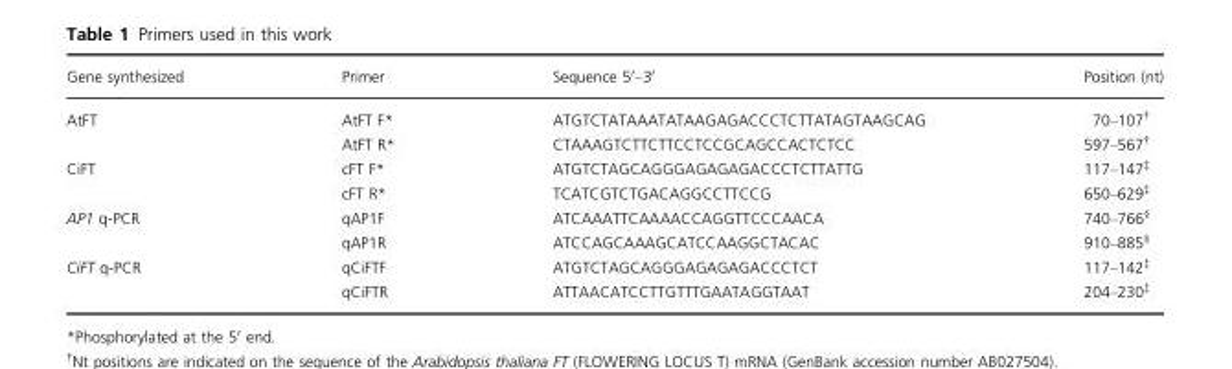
<table><thead><tr><td>Gene synthesized</td><td>Primer</td><td>Sequence 5′–3′</td><td>Position (nt)</td></tr></thead><tbody><tr><td rowspan="2">AtFT</td><td>AtFT F*</td><td>ATGTCTATAAATATAAGAGACCCTCTTATAGTAAGCAG</td><td>70–107†</td></tr><tr><td>AtFT R*</td><td>CTAAAGTCTTCTTCCTCCGCAGCCACTCTCC</td><td>597–567†</td></tr><tr><td rowspan="2">CiFT</td><td>cFT F*</td><td>ATGTCTAGCAGGGAGAGAGACCCTCTTATTG</td><td>117–147‡</td></tr><tr><td>cFT R*</td><td>TCATCGTCTGACAGGCCTTCCG</td><td>650–629‡</td></tr><tr><td rowspan="2">AP1 q-PCR</td><td>qAP1F</td><td>ATCAAATTCAAAACCAGGTTCCCAACA</td><td>740–766§</td></tr><tr><td>qAP1R</td><td>ATCCAGCAAAGCATCCAAGGCTACAC</td><td>910–885§</td></tr><tr><td rowspan="2">CiFT q-PCR</td><td>qCiFTF</td><td>ATGTCTAGCAGGGAGAGAGACCCTCT</td><td>117–142‡</td></tr><tr><td>qCiFTR</td><td>ATTAACATCCTTGTTTGAATAGGTAAT</td><td>204–230‡</td></tr></tbody></table>